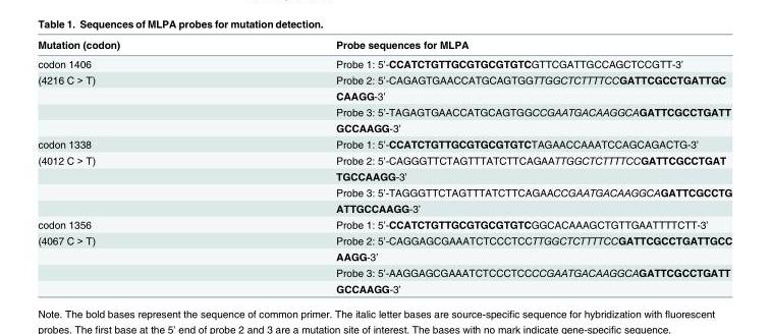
<table><thead><tr><td>Mutation (codon)</td><td>Probe sequences for MLPA</td></tr></thead><tbody><tr><td>codon 1406</td><td>Probe 1: 5’-CCATCTGTTGCGTGCGTGTCGTTCGATTGCCAGCTCCGTT-3’</td></tr><tr><td rowspan="4">(4216 C &gt; T)</td><td>Probe 2: 5’-CAGAGTGAACCATGCAGTGGTTGGCTCTTTTCCGATTCGCCTGATTGC</td></tr><tr><td>CAAGG-3’</td></tr><tr><td>Probe 3: 5’-TAGAGTGAACCATGCAGTGGCCGAATGACAAGGCAGATTCGCCTGATT</td></tr><tr><td>GCCAAGG-3’</td></tr><tr><td>codon 1338</td><td>Probe 1: 5’-CCATCTGTTGCGTGCGTGTCTAGAACCAAATCCAGCAGACTG-3’</td></tr><tr><td rowspan="4">(4012 C &gt; T)</td><td>Probe 2: 5’-CAGGGTTCTAGTTTATCTTCAGAATTGGCTCTTTTCCGATTCGCCTGAT</td></tr><tr><td>TGCCAAGG-3’</td></tr><tr><td>Probe 3: 5’-TAGGGTTCTAGTTTATCTTCAGAACCGAATGACAAGGCAGATTCGCCTG</td></tr><tr><td>ATTGCCAAGG-3’</td></tr><tr><td>codon 1356</td><td>Probe 1: 5’-CCATCTGTTGCGTGCGTGTCGGCACAAAGCTGTTGAATTTTCTT-3’</td></tr><tr><td rowspan="4">(4067 C &gt; T)</td><td>Probe 2: 5’-CAGGAGCGAAATCTCCCTCCTTGGCTCTTTTCCGATTCGCCTGATTGCC</td></tr><tr><td>AAGG-3’</td></tr><tr><td>Probe 3: 5’-AAGGAGCGAAATCTCCCTCCCCGAATGACAAGGCAGATTCGCCTGATT</td></tr><tr><td>GCCAAGG-3’</td></tr></tbody></table>